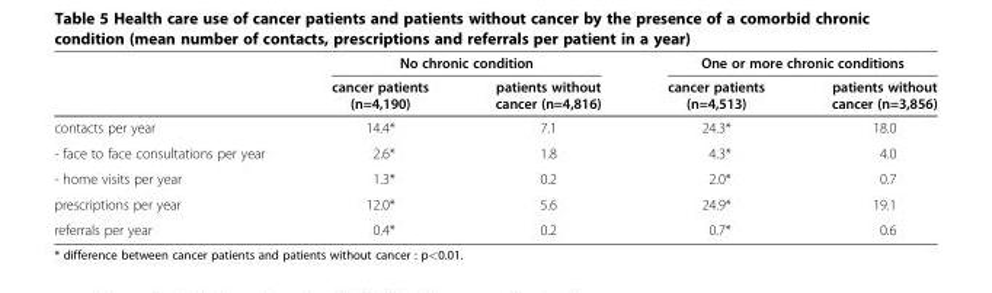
<table><thead><tr><td rowspan="2"></td><td colspan="2">No chronic condition</td><td colspan="2">One or more chronic conditions</td></tr><tr><td>cancer patients (n=4,190)</td><td>patients without cancer (n=4,816)</td><td>cancer patients (n=4,513)</td><td>patients without cancer (n=3,856)</td></tr></thead><tbody><tr><td>contacts per year</td><td>14.4*</td><td>7.1</td><td>24.3*</td><td>18.0</td></tr><tr><td>- face to face consultations per year</td><td>2.6*</td><td>1.8</td><td>4.3*</td><td>4.0</td></tr><tr><td>- home visits per year</td><td>1.3*</td><td>0.2</td><td>2.0*</td><td>0.7</td></tr><tr><td>prescriptions per year</td><td>12.0*</td><td>5.6</td><td>24.9*</td><td>19.1</td></tr><tr><td>referrals per year</td><td>0.4*</td><td>0.2</td><td>0.7*</td><td>0.6</td></tr></tbody></table>